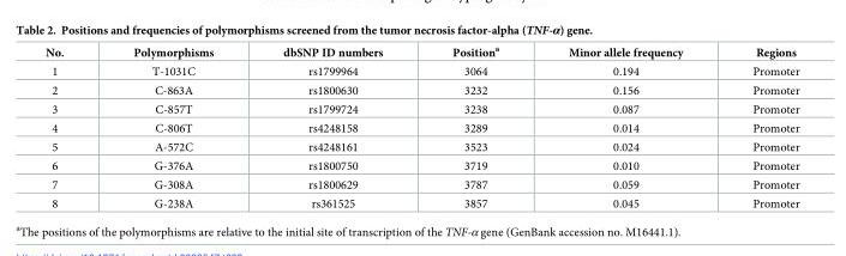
<table><thead><tr><td>No.</td><td>Polymorphisms</td><td>dbSNP ID numbers</td><td>Position<sup>a</sup></td><td>Minor allele frequency</td><td>Regions</td></tr></thead><tbody><tr><td>1</td><td>T-1031C</td><td>rs1799964</td><td>3064</td><td>0.194</td><td>Promoter</td></tr><tr><td>2</td><td>C-863A</td><td>rs1800630</td><td>3232</td><td>0.156</td><td>Promoter</td></tr><tr><td>3</td><td>C-857T</td><td>rs1799724</td><td>3238</td><td>0.087</td><td>Promoter</td></tr><tr><td>4</td><td>C-806T</td><td>rs4248158</td><td>3289</td><td>0.014</td><td>Promoter</td></tr><tr><td>5</td><td>A-572C</td><td>rs4248161</td><td>3523</td><td>0.024</td><td>Promoter</td></tr><tr><td>6</td><td>G-376A</td><td>rs1800750</td><td>3719</td><td>0.010</td><td>Promoter</td></tr><tr><td>7</td><td>G-308A</td><td>rs1800629</td><td>3787</td><td>0.059</td><td>Promoter</td></tr><tr><td>8</td><td>G-238A</td><td>rs361525</td><td>3857</td><td>0.045</td><td>Promoter</td></tr></tbody></table>